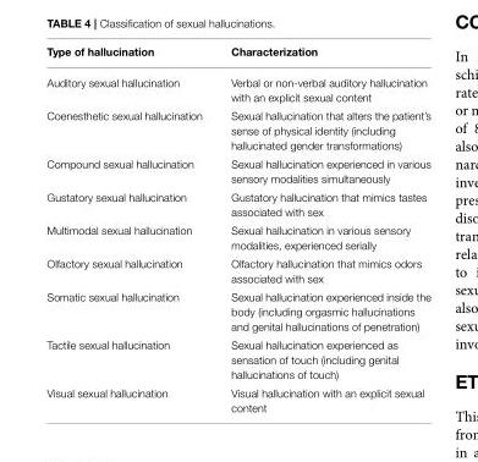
<table><thead><tr><td>Type of hallucination</td><td>Characterization</td></tr></thead><tbody><tr><td>Auditory sexual hallucination</td><td>Verbal or non-verbal auditory hallucination with an explicit sexual content</td></tr><tr><td>Coenesthetic sexual hallucination</td><td>Sexual hallucination that alters the patient’s sense of physical identity (including hallucinated gender transformations)</td></tr><tr><td>Compound sexual hallucination</td><td>Sexual hallucination experienced in various sensory modalities simultaneously</td></tr><tr><td>Gustatory sexual hallucination</td><td>Gustatory hallucination that mimics tastes associated with sex</td></tr><tr><td>Multimodal sexual hallucination</td><td>Sexual hallucination in various sensory modalities, experienced serially</td></tr><tr><td>Olfactory sexual hallucination</td><td>Olfactory hallucination that mimics odors associated with sex</td></tr><tr><td>Somatic sexual hallucination</td><td>Sexual hallucination experienced inside the body (including orgasmic hallucinations and genital hallucinations of penetration)</td></tr><tr><td>Tactile sexual hallucination</td><td>Sexual hallucination experienced as sensation of touch (including genital hallucinations of touch)</td></tr><tr><td>Visual sexual hallucination</td><td>Visual hallucination with an explicit sexual content</td></tr></tbody></table>